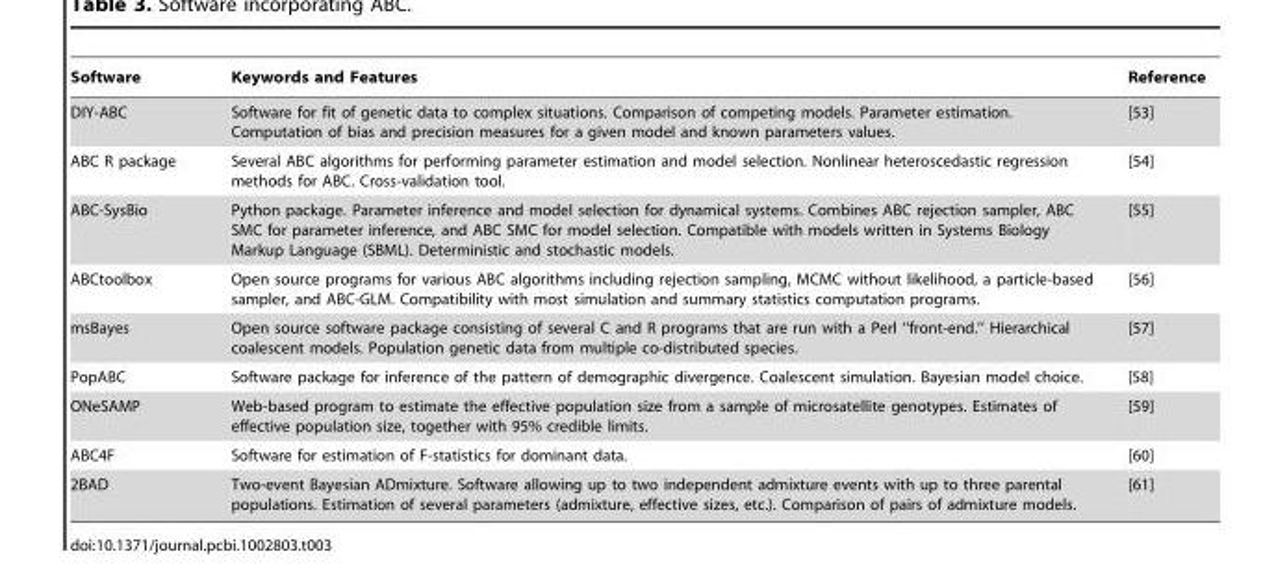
<table><thead><tr><td>Software</td><td>Keywords and Features</td><td>Reference</td></tr></thead><tbody><tr><td>DIY-ABC</td><td>Software for fit of genetic data to complex situations. Comparison of competing models. Parameter estimation. Computation of bias and precision measures for a given model and known parameters values.</td><td>[53]</td></tr><tr><td>ABC R package</td><td>Several ABC algorithms for performing parameter estimation and model selection. Nonlinear heteroscedastic regression methods for ABC. Cross-validation tool.</td><td>[54]</td></tr><tr><td>ABC-SysBio</td><td>Python package. Parameter inference and model selection for dynamical systems. Combines ABC rejection sampler, ABC SMC for parameter inference, and ABC SMC for model selection. Compatible with models written in Systems Biology Markup Language (SBML). Deterministic and stochastic models.</td><td>[55]</td></tr><tr><td>ABCtoolbox</td><td>Open source programs for various ABC algorithms including rejection sampling, MCMC without likelihood, a particle-based sampler, and ABC-GLM. Compatibility with most simulation and summary statistics computation programs.</td><td>[56]</td></tr><tr><td>msBayes</td><td>Open source software package consisting of several C and R programs that are run with a Perl ‘‘front-end.’’ Hierarchical coalescent models. Population genetic data from multiple co-distributed species.</td><td>[57]</td></tr><tr><td>PopABC</td><td>Software package for inference of the pattern of demographic divergence. Coalescent simulation. Bayesian model choice.</td><td>[58]</td></tr><tr><td>ONeSAMP</td><td>Web-based program to estimate the effective population size from a sample of microsatellite genotypes. Estimates of effective population size, together with 95% credible limits.</td><td>[59]</td></tr><tr><td>ABC4F</td><td>Software for estimation of F-statistics for dominant data.</td><td>[60]</td></tr><tr><td>2BAD</td><td>Two-event Bayesian ADmixture. Software allowing up to two independent admixture events with up to three parental populations. Estimation of several parameters (admixture, effective sizes, etc.). Comparison of pairs of admixture models.</td><td>[61]</td></tr></tbody></table>